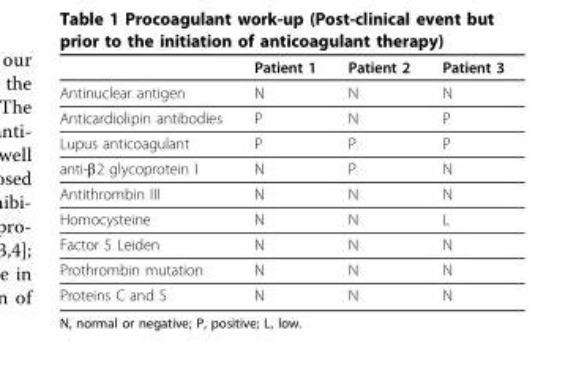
<table><thead><tr><td></td><td>Patient 1</td><td>Patient 2</td><td>Patient 3</td></tr></thead><tbody><tr><td>Antinuclear antigen</td><td>N</td><td>N</td><td>N</td></tr><tr><td>Anticardiolipin antibodies</td><td>P</td><td>N</td><td>P</td></tr><tr><td>Lupus anticoagulant</td><td>P</td><td>P</td><td>P</td></tr><tr><td>anti-β2 glycoprotein I</td><td>N</td><td>P</td><td>N</td></tr><tr><td>Antithrombin III</td><td>N</td><td>N</td><td>N</td></tr><tr><td>Homocysteine</td><td>N</td><td>N</td><td>L</td></tr><tr><td>Factor 5 Leiden</td><td>N</td><td>N</td><td>N</td></tr><tr><td>Prothrombin mutation</td><td>N</td><td>N</td><td>N</td></tr><tr><td>Proteins C and S</td><td>N</td><td>N</td><td>N</td></tr></tbody></table>